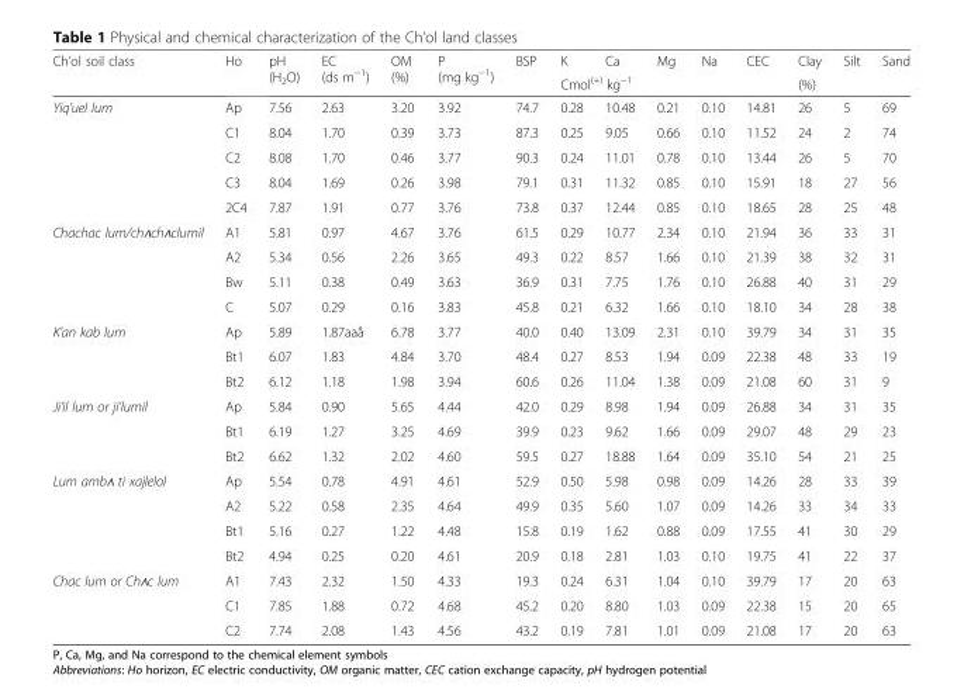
<table><thead><tr><td rowspan="2">Ch’ol soil class</td><td rowspan="2">Ho</td><td rowspan="2">pH (H<sub>2</sub>O)</td><td rowspan="2">EC (ds m<sup>−1</sup>)</td><td rowspan="2">OM (%)</td><td rowspan="2">P (mg kg<sup>−1</sup>)</td><td rowspan="2">BSP</td><td>K</td><td>Ca</td><td>Mg</td><td>Na</td><td>CEC</td><td>Clay</td><td>Silt</td><td>Sand</td></tr><tr><td colspan="5">Cmol<sup>(+)</sup> kg<sup>−1</sup></td><td colspan="3">(%)</td></tr></thead><tbody><tr><td rowspan="5">Yiq’uel lum</td><td>Ap</td><td>7.56</td><td>2.63</td><td>3.20</td><td>3.92</td><td>74.7</td><td>0.28</td><td>10.48</td><td>0.21</td><td>0.10</td><td>14.81</td><td>26</td><td>5</td><td>69</td></tr><tr><td>C1</td><td>8.04</td><td>1.70</td><td>0.39</td><td>3.73</td><td>87.3</td><td>0.25</td><td>9.05</td><td>0.66</td><td>0.10</td><td>11.52</td><td>24</td><td>2</td><td>74</td></tr><tr><td>C2</td><td>8.08</td><td>1.70</td><td>0.46</td><td>3.77</td><td>90.3</td><td>0.24</td><td>11.01</td><td>0.78</td><td>0.10</td><td>13.44</td><td>26</td><td>5</td><td>70</td></tr><tr><td>C3</td><td>8.04</td><td>1.69</td><td>0.26</td><td>3.98</td><td>79.1</td><td>0.31</td><td>11.32</td><td>0.85</td><td>0.10</td><td>15.91</td><td>18</td><td>27</td><td>56</td></tr><tr><td>2C4</td><td>7.87</td><td>1.91</td><td>0.77</td><td>3.76</td><td>73.8</td><td>0.37</td><td>12.44</td><td>0.85</td><td>0.10</td><td>18.65</td><td>28</td><td>25</td><td>48</td></tr><tr><td rowspan="4">Chachac lum/chʌchʌclumil</td><td>A1</td><td>5.81</td><td>0.97</td><td>4.67</td><td>3.76</td><td>61.5</td><td>0.29</td><td>10.77</td><td>2.34</td><td>0.10</td><td>21.94</td><td>36</td><td>33</td><td>31</td></tr><tr><td>A2</td><td>5.34</td><td>0.56</td><td>2.26</td><td>3.65</td><td>49.3</td><td>0.22</td><td>8.57</td><td>1.66</td><td>0.10</td><td>21.39</td><td>38</td><td>32</td><td>31</td></tr><tr><td>Bw</td><td>5.11</td><td>0.38</td><td>0.49</td><td>3.63</td><td>36.9</td><td>0.31</td><td>7.75</td><td>1.76</td><td>0.10</td><td>26.88</td><td>40</td><td>31</td><td>29</td></tr><tr><td>C</td><td>5.07</td><td>0.29</td><td>0.16</td><td>3.83</td><td>45.8</td><td>0.21</td><td>6.32</td><td>1.66</td><td>0.10</td><td>18.10</td><td>34</td><td>28</td><td>38</td></tr><tr><td rowspan="3">K’an kab lum</td><td>Ap</td><td>5.89</td><td>1.87aaå</td><td>6.78</td><td>3.77</td><td>40.0</td><td>0.40</td><td>13.09</td><td>2.31</td><td>0.10</td><td>39.79</td><td>34</td><td>31</td><td>35</td></tr><tr><td>Bt1</td><td>6.07</td><td>1.83</td><td>4.84</td><td>3.70</td><td>48.4</td><td>0.27</td><td>8.53</td><td>1.94</td><td>0.09</td><td>22.38</td><td>48</td><td>33</td><td>19</td></tr><tr><td>Bt2</td><td>6.12</td><td>1.18</td><td>1.98</td><td>3.94</td><td>60.6</td><td>0.26</td><td>11.04</td><td>1.38</td><td>0.09</td><td>21.08</td><td>60</td><td>31</td><td>9</td></tr><tr><td rowspan="3">Ji’il lum or ji’lumil</td><td>Ap</td><td>5.84</td><td>0.90</td><td>5.65</td><td>4.44</td><td>42.0</td><td>0.29</td><td>8.98</td><td>1.94</td><td>0.09</td><td>26.88</td><td>34</td><td>31</td><td>35</td></tr><tr><td>Bt1</td><td>6.19</td><td>1.27</td><td>3.25</td><td>4.69</td><td>39.9</td><td>0.23</td><td>9.62</td><td>1.66</td><td>0.09</td><td>29.07</td><td>48</td><td>29</td><td>23</td></tr><tr><td>Bt2</td><td>6.62</td><td>1.32</td><td>2.02</td><td>4.60</td><td>59.5</td><td>0.27</td><td>18.88</td><td>1.64</td><td>0.09</td><td>35.10</td><td>54</td><td>21</td><td>25</td></tr><tr><td rowspan="4">Lum ambʌ ti xajlelol</td><td>Ap</td><td>5.54</td><td>0.78</td><td>4.91</td><td>4.61</td><td>52.9</td><td>0.50</td><td>5.98</td><td>0.98</td><td>0.09</td><td>14.26</td><td>28</td><td>33</td><td>39</td></tr><tr><td>A2</td><td>5.22</td><td>0.58</td><td>2.35</td><td>4.64</td><td>49.9</td><td>0.35</td><td>5.60</td><td>1.07</td><td>0.09</td><td>14.26</td><td>33</td><td>34</td><td>33</td></tr><tr><td>Bt1</td><td>5.16</td><td>0.27</td><td>1.22</td><td>4.48</td><td>15.8</td><td>0.19</td><td>1.62</td><td>0.88</td><td>0.09</td><td>17.55</td><td>41</td><td>30</td><td>29</td></tr><tr><td>Bt2</td><td>4.94</td><td>0.25</td><td>0.20</td><td>4.61</td><td>20.9</td><td>0.18</td><td>2.81</td><td>1.03</td><td>0.10</td><td>19.75</td><td>41</td><td>22</td><td>37</td></tr><tr><td rowspan="3">Chac lum or Chʌc lum</td><td>A1</td><td>7.43</td><td>2.32</td><td>1.50</td><td>4.33</td><td>19.3</td><td>0.24</td><td>6.31</td><td>1.04</td><td>0.10</td><td>39.79</td><td>17</td><td>20</td><td>63</td></tr><tr><td>C1</td><td>7.85</td><td>1.88</td><td>0.72</td><td>4.68</td><td>45.2</td><td>0.20</td><td>8.80</td><td>1.03</td><td>0.09</td><td>22.38</td><td>15</td><td>20</td><td>65</td></tr><tr><td>C2</td><td>7.74</td><td>2.08</td><td>1.43</td><td>4.56</td><td>43.2</td><td>0.19</td><td>7.81</td><td>1.01</td><td>0.09</td><td>21.08</td><td>17</td><td>20</td><td>63</td></tr></tbody></table>